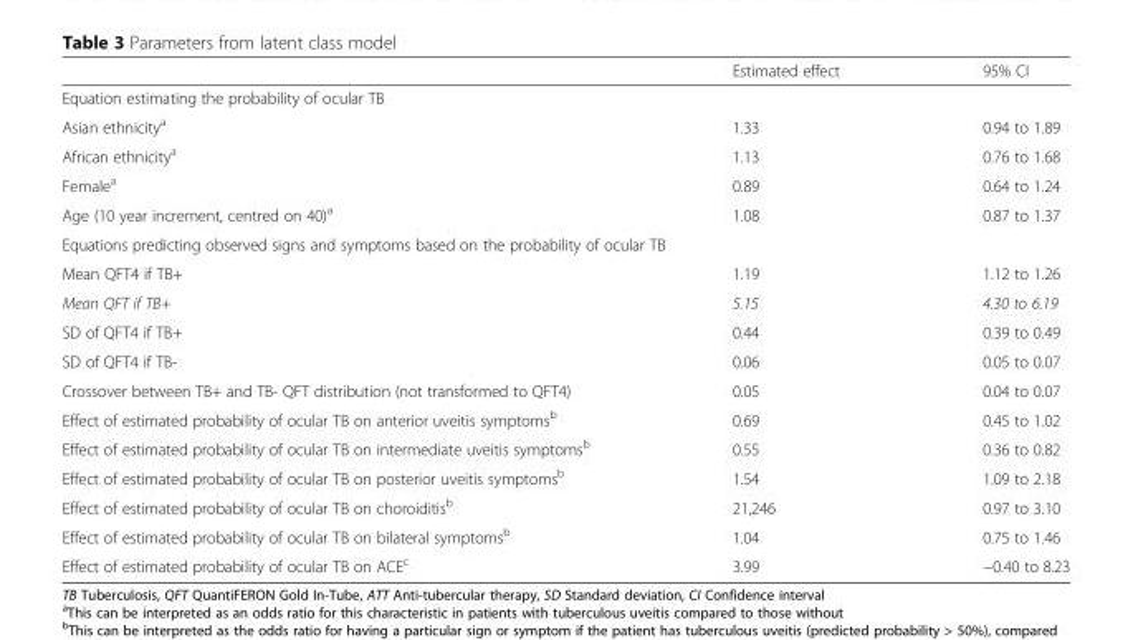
<table><thead><tr><td></td><td>Estimated effect</td><td>95% CI</td></tr></thead><tbody><tr><td colspan="3">Equation estimating the probability of ocular TB</td></tr><tr><td>Asian ethnicity<sup>a</sup></td><td>1.33</td><td>0.94 to 1.89</td></tr><tr><td>African ethnicity<sup>a</sup></td><td>1.13</td><td>0.76 to 1.68</td></tr><tr><td>Female<sup>a</sup></td><td>0.89</td><td>0.64 to 1.24</td></tr><tr><td>Age (10 year increment, centred on 40)<sup>a</sup></td><td>1.08</td><td>0.87 to 1.37</td></tr><tr><td colspan="3">Equations predicting observed signs and symptoms based on the probability of ocular TB</td></tr><tr><td>Mean QFT4 if TB+</td><td>1.19</td><td>1.12 to 1.26</td></tr><tr><td>Mean QFT if TB+</td><td>5.15</td><td>4.30 to 6.19</td></tr><tr><td>SD of QFT4 if TB+</td><td>0.44</td><td>0.39 to 0.49</td></tr><tr><td>SD of QFT4 if TB-</td><td>0.06</td><td>0.05 to 0.07</td></tr><tr><td>Crossover between TB+ and TB- QFT distribution (not transformed to QFT4)</td><td>0.05</td><td>0.04 to 0.07</td></tr><tr><td>Effect of estimated probability of ocular TB on anterior uveitis symptoms<sup>b</sup></td><td>0.69</td><td>0.45 to 1.02</td></tr><tr><td>Effect of estimated probability of ocular TB on intermediate uveitis symptoms<sup>b</sup></td><td>0.55</td><td>0.36 to 0.82</td></tr><tr><td>Effect of estimated probability of ocular TB on posterior uveitis symptoms<sup>b</sup></td><td>1.54</td><td>1.09 to 2.18</td></tr><tr><td>Effect of estimated probability of ocular TB on choroiditis<sup>b</sup></td><td>21,246</td><td>0.97 to 3.10</td></tr><tr><td>Effect of estimated probability of ocular TB on bilateral symptoms<sup>b</sup></td><td>1.04</td><td>0.75 to 1.46</td></tr><tr><td>Effect of estimated probability of ocular TB on ACE<sup>c</sup></td><td>3.99</td><td>−0.40 to 8.23</td></tr></tbody></table>